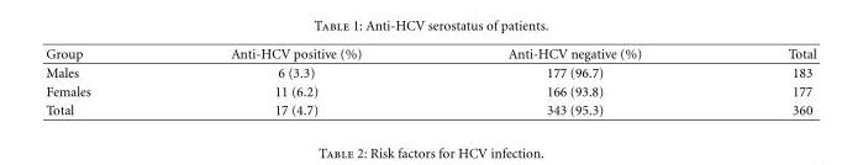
<table><thead><tr><td>Group</td><td>Anti-HCV positive (%)</td><td>Anti-HCV negative (%)</td><td>Total</td></tr></thead><tbody><tr><td>Males</td><td>6 (3.3)</td><td>177 (96.7)</td><td>183</td></tr><tr><td>Females</td><td>11 (6.2)</td><td>166 (93.8)</td><td>177</td></tr><tr><td>Total</td><td>17 (4.7)</td><td>343 (95.3)</td><td>360</td></tr></tbody></table>